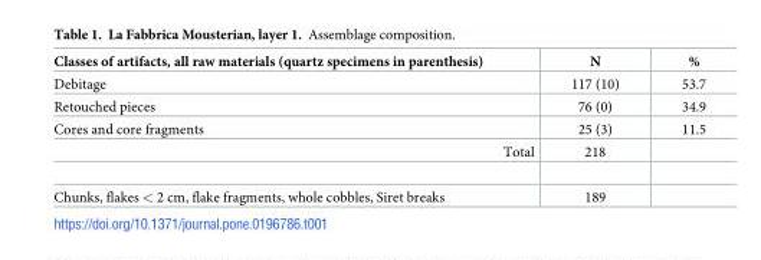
<table><thead><tr><td>Classes of artifacts, all raw materials (quartz specimens in parenthesis)</td><td>N</td><td>%</td></tr></thead><tbody><tr><td>Debitage</td><td>117 (10)</td><td>53.7</td></tr><tr><td>Retouched pieces</td><td>76 (0)</td><td>34.9</td></tr><tr><td>Cores and core fragments</td><td>25 (3)</td><td>11.5</td></tr><tr><td>Total</td><td>218</td><td></td></tr><tr><td>Chunks, flakes &lt; 2 cm, flake fragments, whole cobbles, Siret breaks</td><td>189</td><td></td></tr></tbody></table>